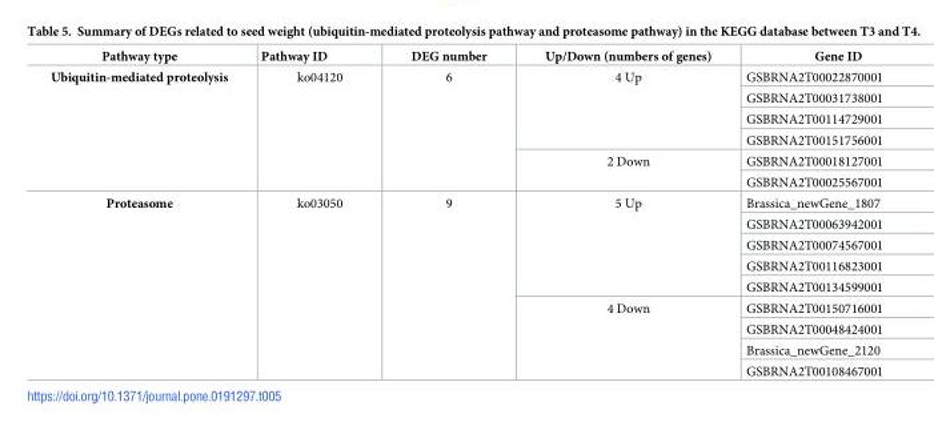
<table><thead><tr><td>Pathway type</td><td>Pathway ID</td><td>DEG number</td><td>Up/Down (numbers of genes)</td><td>Gene ID</td></tr></thead><tbody><tr><td rowspan="6">Ubiquitin-mediated proteolysis</td><td rowspan="6">ko04120</td><td rowspan="6">6</td><td rowspan="4">4 Up</td><td>GSBRNA2T00022870001</td></tr><tr><td>GSBRNA2T00031738001</td></tr><tr><td>GSBRNA2T00114729001</td></tr><tr><td>GSBRNA2T00151756001</td></tr><tr><td rowspan="2">2 Down</td><td>GSBRNA2T00018127001</td></tr><tr><td>GSBRNA2T00025567001</td></tr><tr><td rowspan="9">Proteasome</td><td rowspan="9">ko03050</td><td rowspan="9">9</td><td rowspan="5">5 Up</td><td>Brassica_newGene_1807</td></tr><tr><td>GSBRNA2T00063942001</td></tr><tr><td>GSBRNA2T00074567001</td></tr><tr><td>GSBRNA2T00116823001</td></tr><tr><td>GSBRNA2T00134599001</td></tr><tr><td rowspan="4">4 Down</td><td>GSBRNA2T00150716001</td></tr><tr><td>GSBRNA2T00048424001</td></tr><tr><td>Brassica_newGene_2120</td></tr><tr><td>GSBRNA2T00108467001</td></tr></tbody></table>